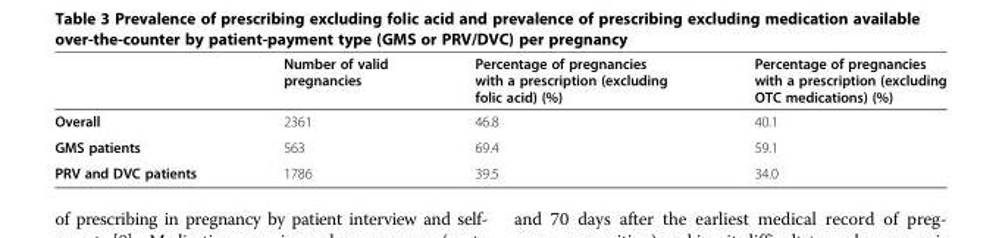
<table><thead><tr><td></td><td>Number of valid pregnancies</td><td>Percentage of pregnancies with a prescription (excluding folic acid) (%)</td><td>Percentage of pregnancies with a prescription (excluding OTC medications) (%)</td></tr></thead><tbody><tr><td>Overall</td><td>2361</td><td>46.8</td><td>40.1</td></tr><tr><td>GMS patients</td><td>563</td><td>69.4</td><td>59.1</td></tr><tr><td>PRV and DVC patients</td><td>1786</td><td>39.5</td><td>34.0</td></tr></tbody></table>